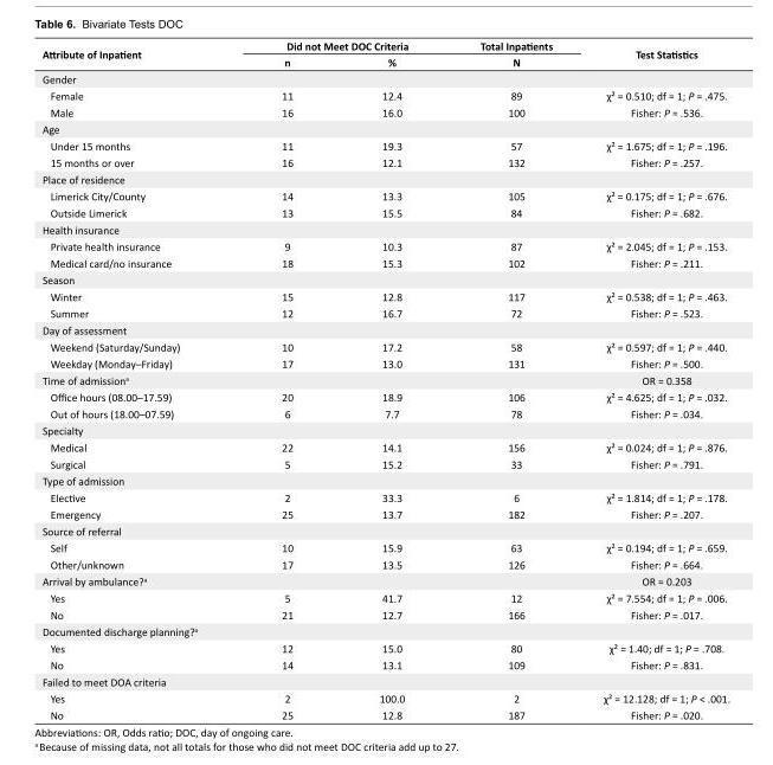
<table><tbody><tr><td rowspan="2">Attribute of Inpatient</td><td colspan="2">Did not Meet DOC Criteria</td><td>Total Inpatients</td><td rowspan="2">Test Statistics</td></tr><tr><td>n</td><td>%</td><td>N</td></tr><tr><td colspan="5">Gender</td></tr><tr><td>Female</td><td>11</td><td>12.4</td><td>89</td><td>χ² = 0.510; df = 1; P = .475.</td></tr><tr><td>Male</td><td>16</td><td>16.0</td><td>100</td><td>Fisher: P = .536.</td></tr><tr><td colspan="5">Age</td></tr><tr><td>Under 15 months</td><td>11</td><td>19.3</td><td>57</td><td>χ² = 1.675; df = 1; P = .196.</td></tr><tr><td>15 months or over</td><td>16</td><td>12.1</td><td>132</td><td>Fisher: P = .257.</td></tr><tr><td colspan="5">Place of residence</td></tr><tr><td>Limerick City/County</td><td>14</td><td>13.3</td><td>105</td><td>χ² = 0.175; df = 1; P = .676.</td></tr><tr><td>Outside Limerick</td><td>13</td><td>15.5</td><td>84</td><td>Fisher: P = .682.</td></tr><tr><td colspan="5">Health insurance</td></tr><tr><td>Private health insurance</td><td>9</td><td>10.3</td><td>87</td><td>χ² = 2.045; df = 1; P = .153.</td></tr><tr><td>Medical card/no insurance</td><td>18</td><td>15.3</td><td>102</td><td>Fisher: P = .211.</td></tr><tr><td colspan="5">Season</td></tr><tr><td>Winter</td><td>15</td><td>12.8</td><td>117</td><td>χ² = 0.538; df = 1; P = .463.</td></tr><tr><td>Summer</td><td>12</td><td>16.7</td><td>72</td><td>Fisher: P = .523.</td></tr><tr><td colspan="5">Day of assessment</td></tr><tr><td>Weekend (Saturday/Sunday)</td><td>10</td><td>17.2</td><td>58</td><td>χ² = 0.597; df = 1; P = .440.</td></tr><tr><td>Weekday (Monday–Friday)</td><td>17</td><td>13.0</td><td>131</td><td>Fisher: P = .500.</td></tr><tr><td>Time of admission<sup>a</sup></td><td></td><td></td><td></td><td>OR = 0.358</td></tr><tr><td>Office hours (08.00–17.59)</td><td>20</td><td>18.9</td><td>106</td><td>χ² = 4.625; df = 1; P = .032.</td></tr><tr><td>Out of hours (18.00–07.59)</td><td>6</td><td>7.7</td><td>78</td><td>Fisher: P = .034.</td></tr><tr><td colspan="5">Specialty</td></tr><tr><td>Medical</td><td>22</td><td>14.1</td><td>156</td><td>χ² = 0.024; df = 1; P = .876.</td></tr><tr><td>Surgical</td><td>5</td><td>15.2</td><td>33</td><td>Fisher: P = .791.</td></tr><tr><td colspan="5">Type of admission</td></tr><tr><td>Elective</td><td>2</td><td>33.3</td><td>6</td><td>χ² = 1.814; df = 1; P = .178.</td></tr><tr><td>Emergency</td><td>25</td><td>13.7</td><td>182</td><td>Fisher: P = .207.</td></tr><tr><td colspan="5">Source of referral</td></tr><tr><td>Self</td><td>10</td><td>15.9</td><td>63</td><td>χ² = 0.194; df = 1; P = .659.</td></tr><tr><td>Other/unknown</td><td>17</td><td>13.5</td><td>126</td><td>Fisher: P = .664.</td></tr><tr><td>Arrival by ambulance?<sup>a</sup></td><td></td><td></td><td></td><td>OR = 0.203</td></tr><tr><td>Yes</td><td>5</td><td>41.7</td><td>12</td><td>χ² = 7.554; df = 1; P = .006.</td></tr><tr><td>No</td><td>21</td><td>12.7</td><td>166</td><td>Fisher: P = .017.</td></tr><tr><td colspan="5">Documented discharge planning?<sup>a</sup></td></tr><tr><td>Yes</td><td>12</td><td>15.0</td><td>80</td><td>χ² = 1.40; df = 1; P = .708.</td></tr><tr><td>No</td><td>14</td><td>13.1</td><td>109</td><td>Fisher: P = .831.</td></tr><tr><td colspan="5">Failed to meet DOA criteria</td></tr><tr><td>Yes</td><td>2</td><td>100.0</td><td>2</td><td>χ² = 12.128; df = 1; P &lt; .001.</td></tr><tr><td>No</td><td>25</td><td>12.8</td><td>187</td><td>Fisher: P = .020.</td></tr></tbody></table>